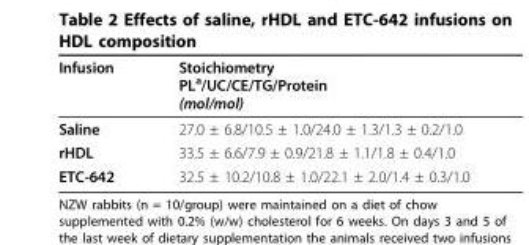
<table><thead><tr><td>Infusion</td><td>Stoichiometry PL<sup>a</sup>/UC/CE/TG/Protein (mol/mol)</td></tr></thead><tbody><tr><td>Saline</td><td>27.0 ± 6.8/10.5 ± 1.0/24.0 ± 1.3/1.3 ± 0.2/1.0</td></tr><tr><td>rHDL</td><td>33.5 ± 6.6/7.9 ± 0.9/21.8 ± 1.1/1.8 ± 0.4/1.0</td></tr><tr><td>ETC-642</td><td>32.5 ± 10.2/10.8 ± 1.0/22.1 ± 2.0/1.4 ± 0.3/1.0</td></tr></tbody></table>